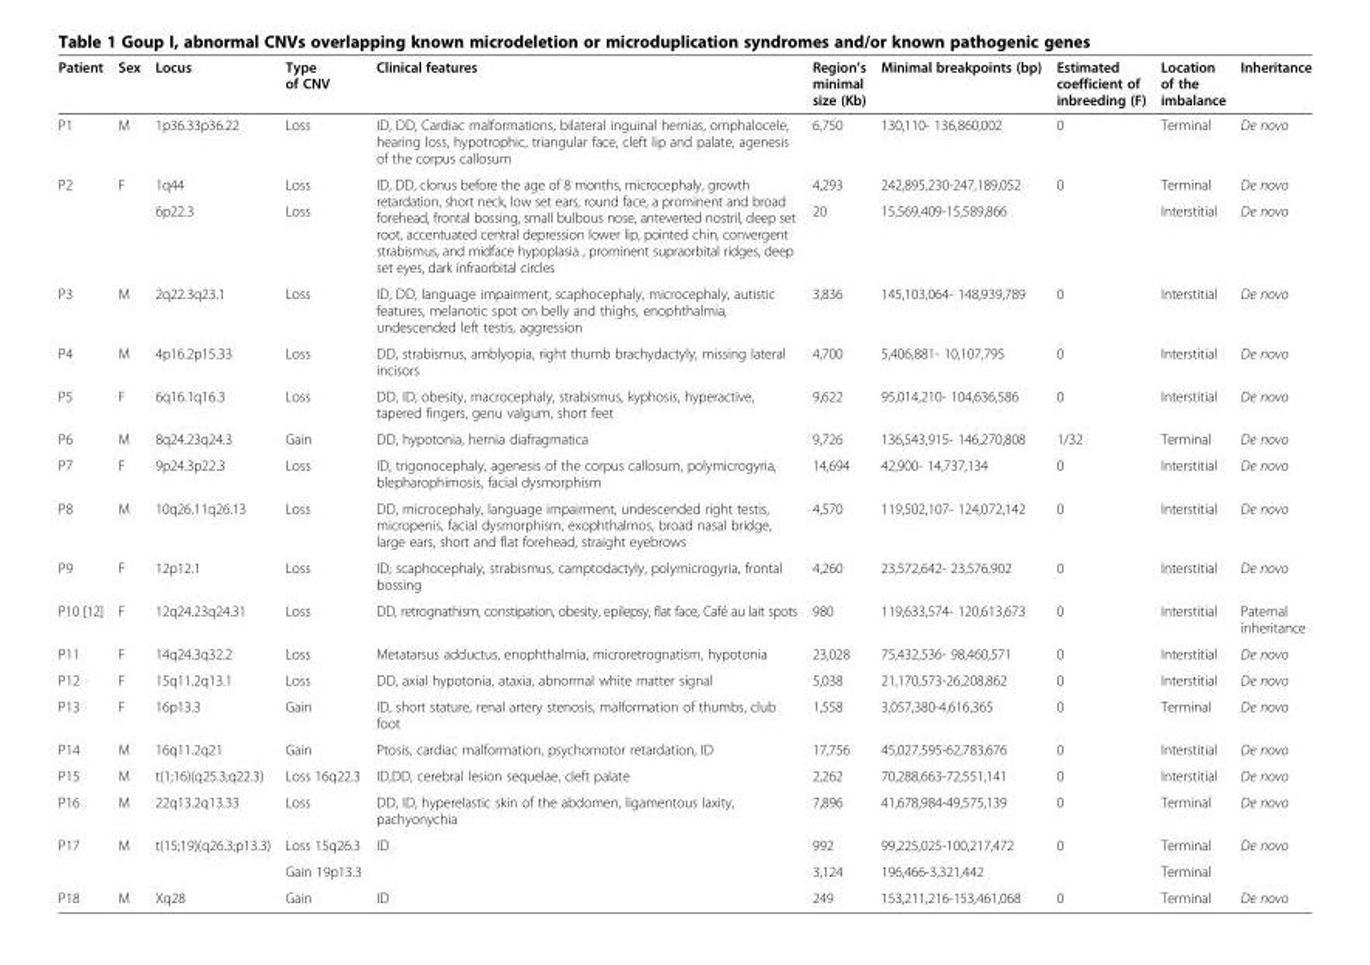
<table><thead><tr><td>Patient</td><td>Sex</td><td>Locus</td><td>Type of CNV</td><td>Clinical features</td><td>Region’s minimal size (Kb)</td><td>Minimal breakpoints (bp)</td><td>Estimated coefficient of inbreeding (F)</td><td>Location of the imbalance</td><td>Inheritance</td></tr></thead><tbody><tr><td>P1</td><td>M</td><td>1p36.33p36.22</td><td>Loss</td><td>ID, DD, Cardiac malformations, bilateral inguinal hernias, omphalocele, hearing loss, hypotrophic, triangular face, cleft lip and palate, agenesis of the corpus callosum</td><td>6,750</td><td>130,110- 136,860,002</td><td>0</td><td>Terminal</td><td>De novo</td></tr><tr><td rowspan="2">P2</td><td rowspan="2">F</td><td>1q44</td><td>Loss</td><td rowspan="2">ID, DD, clonus before the age of 8 months, microcephaly, growth retardation, short neck, low set ears, round face, a prominent and broad forehead, frontal bossing, small bulbous nose, anteverted nostril, deep set root, accentuated central depression lower lip, pointed chin, convergent strabismus, and midface hypoplasia , prominent supraorbital ridges, deep set eyes, dark infraorbital circles</td><td>4,293</td><td>242,895,230-247,189,052</td><td>0</td><td>Terminal</td><td>De novo</td></tr><tr><td>6p22.3</td><td>Loss</td><td>20</td><td>15,569,409-15,589,866</td><td></td><td>Interstitial</td><td>De novo</td></tr><tr><td>P3</td><td>M</td><td>2q22.3q23.1</td><td>Loss</td><td>ID, DD, language impairment, scaphocephaly, microcephaly, autistic features, melanotic spot on belly and thighs, enophthalmia, undescended left testis, aggression</td><td>3,836</td><td>145,103,064- 148,939,789</td><td>0</td><td>Interstitial</td><td>De novo</td></tr><tr><td>P4</td><td>M</td><td>4p16.2p15.33</td><td>Loss</td><td>DD, strabismus, amblyopia, right thumb brachydactyly, missing lateral incisors</td><td>4,700</td><td>5,406,881- 10,107,795</td><td>0</td><td>Interstitial</td><td>De novo</td></tr><tr><td>P5</td><td>F</td><td>6q16.1q16.3</td><td>Loss</td><td>DD, ID, obesity, macrocephaly, strabismus, kyphosis, hyperactive, tapered fingers, genu valgum, short feet</td><td>9,622</td><td>95,014,210- 104,636,586</td><td>0</td><td>Interstitial</td><td>De novo</td></tr><tr><td>P6</td><td>M</td><td>8q24.23q24.3</td><td>Gain</td><td>DD, hypotonia, hernia diafragmatica</td><td>9,726</td><td>136,543,915- 146,270,808</td><td>1/32</td><td>Terminal</td><td>De novo</td></tr><tr><td>P7</td><td>F</td><td>9p24.3p22.3</td><td>Loss</td><td>ID, trigonocephaly, agenesis of the corpus callosum, polymicrogyria, blepharophimosis, facial dysmorphism</td><td>14,694</td><td>42,900- 14,737,134</td><td>0</td><td>Interstitial</td><td>De novo</td></tr><tr><td>P8</td><td>M</td><td>10q26.11q26.13</td><td>Loss</td><td>DD, microcephaly, language impairment, undescended right testis, micropenis, facial dysmorphism, exophthalmos, broad nasal bridge, large ears, short and flat forehead, straight eyebrows</td><td>4,570</td><td>119,502,107- 124,072,142</td><td>0</td><td>Interstitial</td><td>De novo</td></tr><tr><td>P9</td><td>F</td><td>12p12.1</td><td>Loss</td><td>ID, scaphocephaly, strabismus, camptodactyly, polymicrogyria, frontal bossing</td><td>4,260</td><td>23,572,642- 23,576,902</td><td>0</td><td>Interstitial</td><td>De novo</td></tr><tr><td>P10 [12]</td><td>F</td><td>12q24.23q24.31</td><td>Loss</td><td>DD, retrognathism, constipation, obesity, epilepsy, flat face, Café au lait spots</td><td>980</td><td>119,633,574- 120,613,673</td><td>0</td><td>Interstitial</td><td>Paternal inheritance</td></tr><tr><td>P11</td><td>F</td><td>14q24.3q32.2</td><td>Loss</td><td>Metatarsus adductus, enophthalmia, microretrognatism, hypotonia</td><td>23,028</td><td>75,432,536- 98,460,571</td><td>0</td><td>Interstitial</td><td>De novo</td></tr><tr><td>P12</td><td>F</td><td>15q11.2q13.1</td><td>Loss</td><td>DD, axial hypotonia, ataxia, abnormal white matter signal</td><td>5,038</td><td>21,170,573-26,208,862</td><td>0</td><td>Interstitial</td><td>De novo</td></tr><tr><td>P13</td><td>F</td><td>16p13.3</td><td>Gain</td><td>ID, short stature, renal artery stenosis, malformation of thumbs, club foot</td><td>1,558</td><td>3,057,380-4,616,365</td><td>0</td><td>Terminal</td><td>De novo</td></tr><tr><td>P14</td><td>M</td><td>16q11.2q21</td><td>Gain</td><td>Ptosis, cardiac malformation, psychomotor retardation, ID</td><td>17,756</td><td>45,027,595-62,783,676</td><td>0</td><td>Interstitial</td><td>De novo</td></tr><tr><td>P15</td><td>M</td><td>t(1;16)(q25.3;q22.3)</td><td>Loss 16q22.3</td><td>ID,DD, cerebral lesion sequelae, cleft palate</td><td>2,262</td><td>70,288,663-72,551,141</td><td>0</td><td>Interstitial</td><td>De novo</td></tr><tr><td>P16</td><td>M</td><td>22q13.2q13.33</td><td>Loss</td><td>DD, ID, hyperelastic skin of the abdomen, ligamentous laxity, pachyonychia</td><td>7,896</td><td>41,678,984-49,575,139</td><td>0</td><td>Terminal</td><td>De novo</td></tr><tr><td rowspan="2">P17</td><td rowspan="2">M</td><td rowspan="2">t(15;19)(q26.3;p13.3)</td><td>Loss 15q26.3</td><td rowspan="2">ID</td><td>992</td><td>99,225,025-100,217,472</td><td>0</td><td>Terminal</td><td>De novo</td></tr><tr><td>Gain 19p13.3</td><td>3,124</td><td>196,466-3,321,442</td><td></td><td>Terminal</td><td></td></tr><tr><td>P18</td><td>M</td><td>Xq28</td><td>Gain</td><td>ID</td><td>249</td><td>153,211,216-153,461,068</td><td>0</td><td>Terminal</td><td>De novo</td></tr></tbody></table>